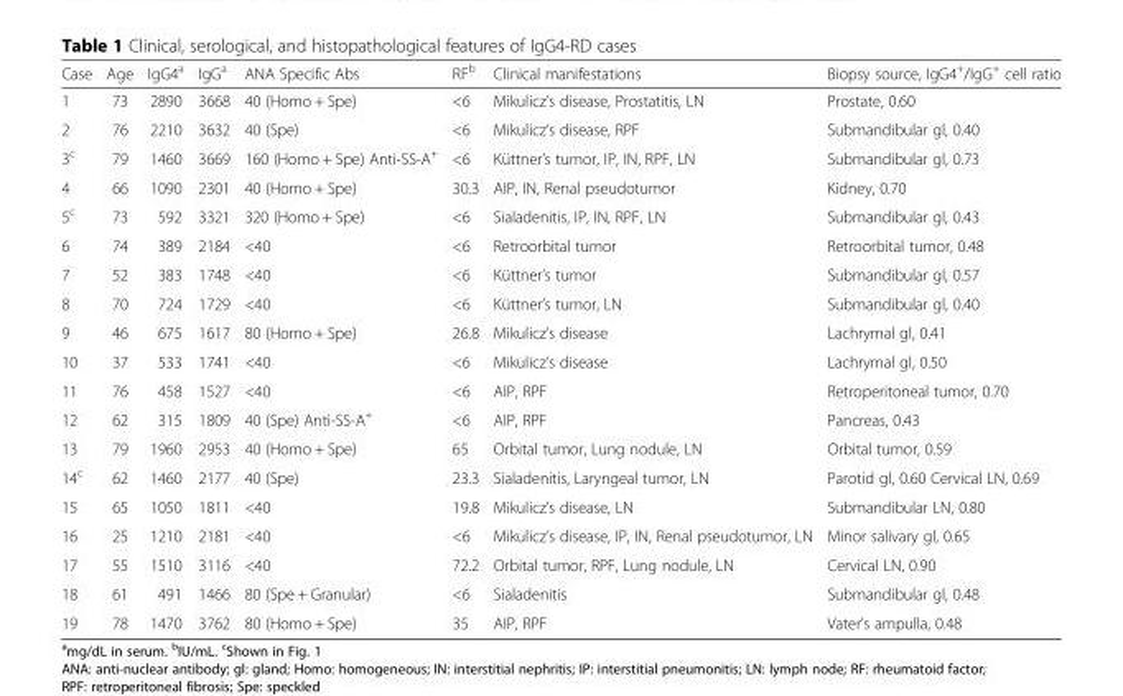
<table><thead><tr><td>Case</td><td>Age</td><td>IgG4<sup>a</sup></td><td>IgG<sup>a</sup></td><td>ANA Specific Abs</td><td>RF<sup>b</sup></td><td>Clinical manifestations</td><td>Biopsy source, IgG4<sup>+</sup>/IgG<sup>+</sup> cell ratio</td></tr></thead><tbody><tr><td>1</td><td>73</td><td>2890</td><td>3668</td><td>40 (Homo + Spe)</td><td>&lt;6</td><td>Mikulicz’s disease, Prostatitis, LN</td><td>Prostate, 0.60</td></tr><tr><td>2</td><td>76</td><td>2210</td><td>3632</td><td>40 (Spe)</td><td>&lt;6</td><td>Mikulicz’s disease, RPF</td><td>Submandibular gl, 0.40</td></tr><tr><td>3<sup>c</sup></td><td>79</td><td>1460</td><td>3669</td><td>160 (Homo + Spe) Anti-SS-A<sup>+</sup></td><td>&lt;6</td><td>Küttner’s tumor, IP, IN, RPF, LN</td><td>Submandibular gl, 0.73</td></tr><tr><td>4</td><td>66</td><td>1090</td><td>2301</td><td>40 (Homo + Spe)</td><td>30.3</td><td>AIP, IN, Renal pseudotumor</td><td>Kidney, 0.70</td></tr><tr><td>5<sup>c</sup></td><td>73</td><td>592</td><td>3321</td><td>320 (Homo + Spe)</td><td>&lt;6</td><td>Sialadenitis, IP, IN, RPF, LN</td><td>Submandibular gl, 0.43</td></tr><tr><td>6</td><td>74</td><td>389</td><td>2184</td><td>&lt;40</td><td>&lt;6</td><td>Retroorbital tumor</td><td>Retroorbital tumor, 0.48</td></tr><tr><td>7</td><td>52</td><td>383</td><td>1748</td><td>&lt;40</td><td>&lt;6</td><td>Küttner’s tumor</td><td>Submandibular gl, 0.57</td></tr><tr><td>8</td><td>70</td><td>724</td><td>1729</td><td>&lt;40</td><td>&lt;6</td><td>Küttner’s tumor, LN</td><td>Submandibular gl, 0.40</td></tr><tr><td>9</td><td>46</td><td>675</td><td>1617</td><td>80 (Homo + Spe)</td><td>26.8</td><td>Mikulicz’s disease</td><td>Lachrymal gl, 0.41</td></tr><tr><td>10</td><td>37</td><td>533</td><td>1741</td><td>&lt;40</td><td>&lt;6</td><td>Mikulicz’s disease</td><td>Lachrymal gl, 0.50</td></tr><tr><td>11</td><td>76</td><td>458</td><td>1527</td><td>&lt;40</td><td>&lt;6</td><td>AIP, RPF</td><td>Retroperitoneal tumor, 0.70</td></tr><tr><td>12</td><td>62</td><td>315</td><td>1809</td><td>40 (Spe) Anti-SS-A<sup>+</sup></td><td>&lt;6</td><td>AIP, RPF</td><td>Pancreas, 0.43</td></tr><tr><td>13</td><td>79</td><td>1960</td><td>2953</td><td>40 (Homo + Spe)</td><td>65</td><td>Orbital tumor, Lung nodule, LN</td><td>Orbital tumor, 0.59</td></tr><tr><td>14<sup>c</sup></td><td>62</td><td>1460</td><td>2177</td><td>40 (Spe)</td><td>23.3</td><td>Sialadenitis, Laryngeal tumor, LN</td><td>Parotid gl, 0.60 Cervical LN, 0.69</td></tr><tr><td>15</td><td>65</td><td>1050</td><td>1811</td><td>&lt;40</td><td>19.8</td><td>Mikulicz’s disease, LN</td><td>Submandibular LN, 0.80</td></tr><tr><td>16</td><td>25</td><td>1210</td><td>2181</td><td>&lt;40</td><td>&lt;6</td><td>Mikulicz’s disease, IP, IN, Renal pseudotumor, LN</td><td>Minor salivary gl, 0.65</td></tr><tr><td>17</td><td>55</td><td>1510</td><td>3116</td><td>&lt;40</td><td>72.2</td><td>Orbital tumor, RPF, Lung nodule, LN</td><td>Cervical LN, 0.90</td></tr><tr><td>18</td><td>61</td><td>491</td><td>1466</td><td>80 (Spe + Granular)</td><td>&lt;6</td><td>Sialadenitis</td><td>Submandibular gl, 0.48</td></tr><tr><td>19</td><td>78</td><td>1470</td><td>3762</td><td>80 (Homo + Spe)</td><td>35</td><td>AIP, RPF</td><td>Vater’s ampulla, 0.48</td></tr></tbody></table>